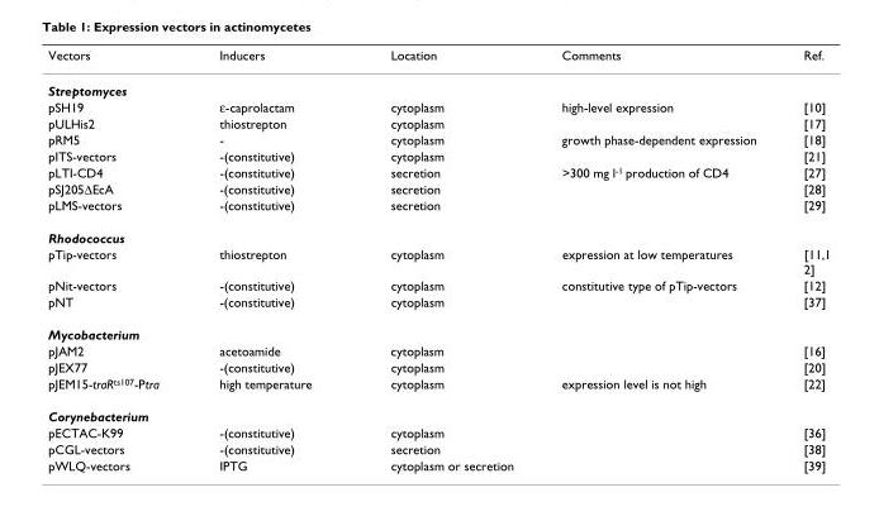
<table><thead><tr><td>Vectors</td><td>Inducers</td><td>Location</td><td>Comments</td><td>Ref.</td></tr></thead><tbody><tr><td colspan="5">Streptomyces</td></tr><tr><td>pSH19</td><td>ε-caprolactam</td><td>cytoplasm</td><td>high-level expression</td><td>[10]</td></tr><tr><td>pULHis2</td><td>thiostrepton</td><td>cytoplasm</td><td></td><td>[17]</td></tr><tr><td>pRM5</td><td>-</td><td>cytoplasm</td><td>growth phase-dependent expression</td><td>[18]</td></tr><tr><td>pITS-vectors</td><td>-(constitutive)</td><td>cytoplasm</td><td></td><td>[21]</td></tr><tr><td>pLTI-CD4</td><td>-(constitutive)</td><td>secretion</td><td>&gt;300 mg l-1 production of CD4</td><td>[27]</td></tr><tr><td>pSJ205∆EcA</td><td>-(constitutive)</td><td>secretion</td><td></td><td>[28]</td></tr><tr><td>pLMS-vectors</td><td>-(constitutive)</td><td>secretion</td><td></td><td>[29]</td></tr><tr><td colspan="5">Rhodococcus</td></tr><tr><td>pTip-vectors</td><td>thiostrepton</td><td>cytoplasm</td><td>expression at low temperatures</td><td>[11,1 2]</td></tr><tr><td>pNit-vectors</td><td>-(constitutive)</td><td>cytoplasm</td><td>constitutive type of pTip-vectors</td><td>[12]</td></tr><tr><td>pNT</td><td>-(constitutive)</td><td>cytoplasm</td><td></td><td>[37]</td></tr><tr><td colspan="5">Mycobacterium</td></tr><tr><td>pJAM2</td><td>acetoamide</td><td>cytoplasm</td><td></td><td>[16]</td></tr><tr><td>pJEX77</td><td>-(constitutive)</td><td>cytoplasm</td><td></td><td>[20]</td></tr><tr><td>pJEM15-traRts107-Ptra</td><td>high temperature</td><td>cytoplasm</td><td>expression level is not high</td><td>[22]</td></tr><tr><td colspan="5">Corynebacterium</td></tr><tr><td>pECTAC-K99</td><td>-(constitutive)</td><td>cytoplasm</td><td></td><td>[36]</td></tr><tr><td>pCGL-vectors</td><td>-(constitutive)</td><td>secretion</td><td></td><td>[38]</td></tr><tr><td>pWLQ-vectors</td><td>IPTG</td><td>cytoplasm or secretion</td><td></td><td>[39]</td></tr></tbody></table>